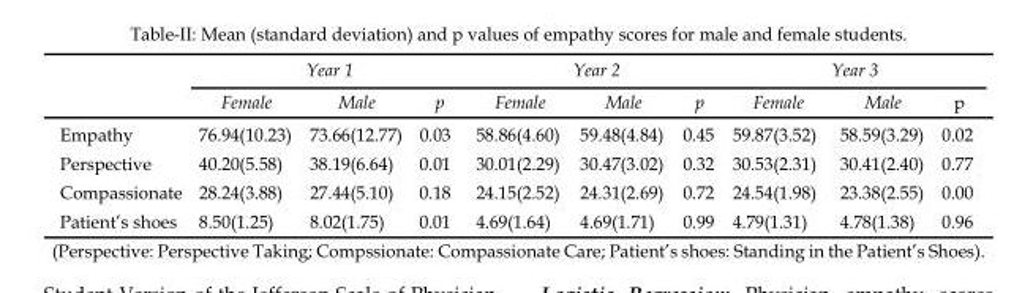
<table><thead><tr><td rowspan="2"></td><td colspan="3">Year 1</td><td colspan="3">Year 2</td><td colspan="3">Year 3</td></tr><tr><td>Female</td><td>Male</td><td>p</td><td>Female</td><td>Male</td><td>p</td><td>Female</td><td>Male</td><td>p</td></tr></thead><tbody><tr><td>Empathy</td><td>76.94(10.23)</td><td>73.66(12.77)</td><td>0.03</td><td>58.86(4.60)</td><td>59.48(4.84)</td><td>0.45</td><td>59.87(3.52)</td><td>58.59(3.29)</td><td>0.02</td></tr><tr><td>Perspective</td><td>40.20(5.58)</td><td>38.19(6.64)</td><td>0.01</td><td>30.01(2.29)</td><td>30.47(3.02)</td><td>0.32</td><td>30.53(2.31)</td><td>30.41(2.40)</td><td>0.77</td></tr><tr><td>Compassionate</td><td>28.24(3.88)</td><td>27.44(5.10)</td><td>0.18</td><td>24.15(2.52)</td><td>24.31(2.69)</td><td>0.72</td><td>24.54(1.98)</td><td>23.38(2.55)</td><td>0.00</td></tr><tr><td>Patient’s shoes</td><td>8.50(1.25)</td><td>8.02(1.75)</td><td>0.01</td><td>4.69(1.64)</td><td>4.69(1.71)</td><td>0.99</td><td>4.79(1.31)</td><td>4.78(1.38)</td><td>0.96</td></tr></tbody></table>